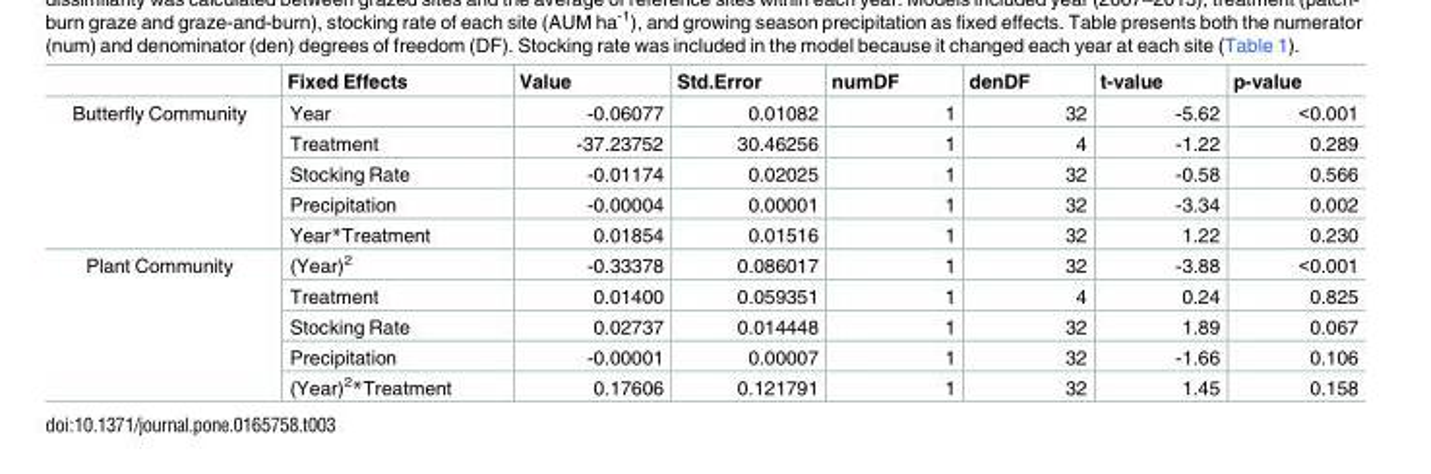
<table><thead><tr><td></td><td>Fixed Effects</td><td>Value</td><td>Std.Error</td><td>numDF</td><td>denDF</td><td>t-value</td><td>p-value</td></tr></thead><tbody><tr><td rowspan="5">Butterfly Community</td><td>Year</td><td>-0.06077</td><td>0.01082</td><td>1</td><td>32</td><td>-5.62</td><td>&lt;0.001</td></tr><tr><td>Treatment</td><td>-37.23752</td><td>30.46256</td><td>1</td><td>4</td><td>-1.22</td><td>0.289</td></tr><tr><td>Stocking Rate</td><td>-0.01174</td><td>0.02025</td><td>1</td><td>32</td><td>-0.58</td><td>0.566</td></tr><tr><td>Precipitation</td><td>-0.00004</td><td>0.00001</td><td>1</td><td>32</td><td>-3.34</td><td>0.002</td></tr><tr><td>Year*Treatment</td><td>0.01854</td><td>0.01516</td><td>1</td><td>32</td><td>1.22</td><td>0.230</td></tr><tr><td rowspan="5">Plant Community</td><td>(Year)<sup>2</sup></td><td>-0.33378</td><td>0.086017</td><td>1</td><td>32</td><td>-3.88</td><td>&lt;0.001</td></tr><tr><td>Treatment</td><td>0.01400</td><td>0.059351</td><td>1</td><td>4</td><td>0.24</td><td>0.825</td></tr><tr><td>Stocking Rate</td><td>0.02737</td><td>0.014448</td><td>1</td><td>32</td><td>1.89</td><td>0.067</td></tr><tr><td>Precipitation</td><td>-0.00001</td><td>0.00007</td><td>1</td><td>32</td><td>-1.66</td><td>0.106</td></tr><tr><td>(Year)<sup>2</sup>*Treatment</td><td>0.17606</td><td>0.121791</td><td>1</td><td>32</td><td>1.45</td><td>0.158</td></tr></tbody></table>